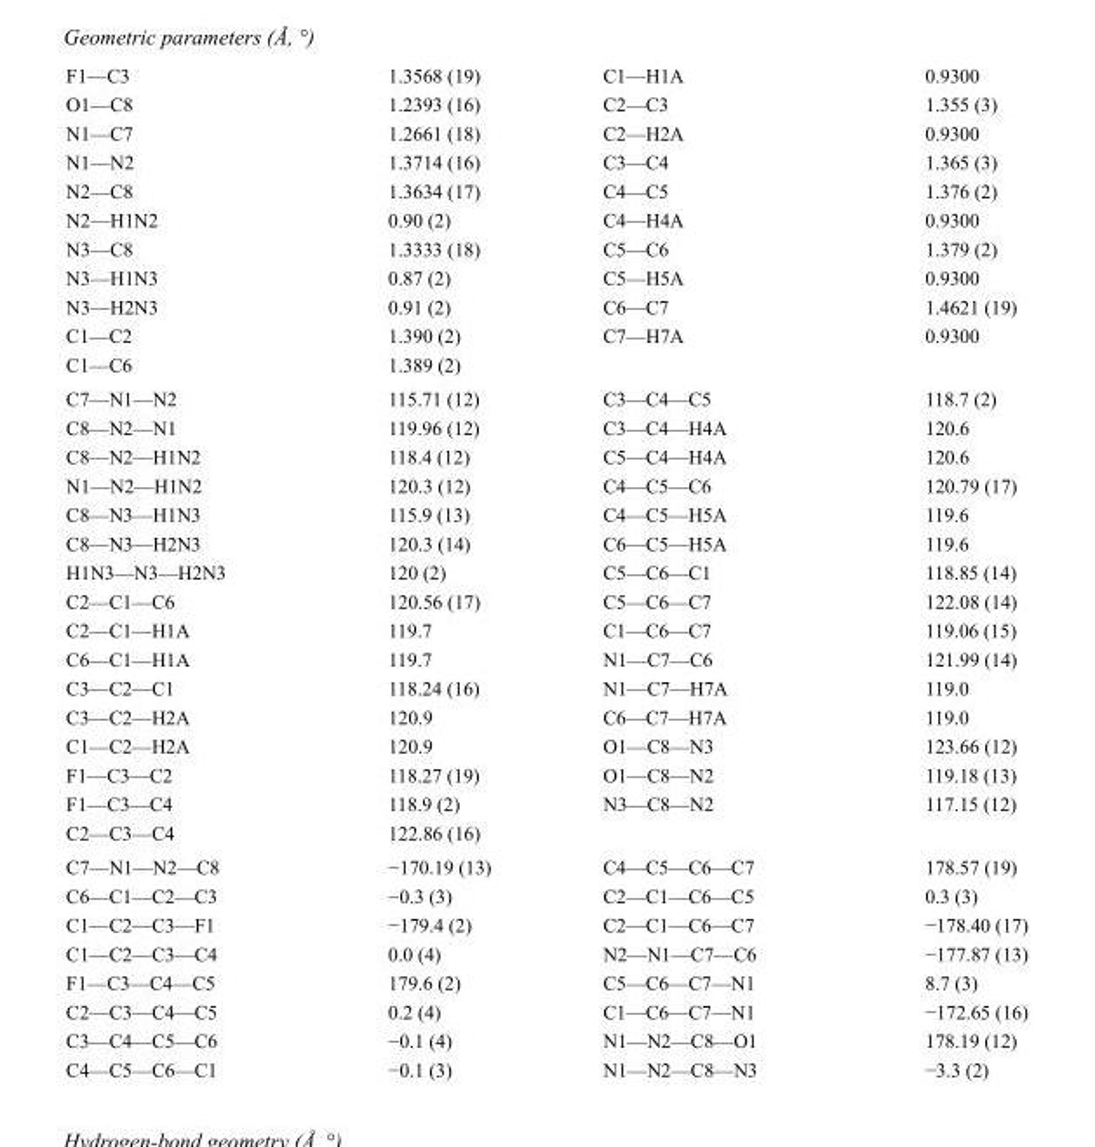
<table><tbody><tr><td>F1—C3</td><td>1.3568 (19)</td><td>C1—H1A</td><td>0.9300</td></tr><tr><td>O1—C8</td><td>1.2393 (16)</td><td>C2—C3</td><td>1.355 (3)</td></tr><tr><td>N1—C7</td><td>1.2661 (18)</td><td>C2—H2A</td><td>0.9300</td></tr><tr><td>N1—N2</td><td>1.3714 (16)</td><td>C3—C4</td><td>1.365 (3)</td></tr><tr><td>N2—C8</td><td>1.3634 (17)</td><td>C4—C5</td><td>1.376 (2)</td></tr><tr><td>N2—H1N2</td><td>0.90 (2)</td><td>C4—H4A</td><td>0.9300</td></tr><tr><td>N3—C8</td><td>1.3333 (18)</td><td>C5—C6</td><td>1.379 (2)</td></tr><tr><td>N3—H1N3</td><td>0.87 (2)</td><td>C5—H5A</td><td>0.9300</td></tr><tr><td>N3—H2N3</td><td>0.91 (2)</td><td>C6—C7</td><td>1.4621 (19)</td></tr><tr><td>C1—C2</td><td>1.390 (2)</td><td>C7—H7A</td><td>0.9300</td></tr><tr><td>C1—C6</td><td>1.389 (2)</td><td></td><td></td></tr><tr><td>C7—N1—N2</td><td>115.71 (12)</td><td>C3—C4—C5</td><td>118.7 (2)</td></tr><tr><td>C8—N2—N1</td><td>119.96 (12)</td><td>C3—C4—H4A</td><td>120.6</td></tr><tr><td>C8—N2—H1N2</td><td>118.4 (12)</td><td>C5—C4—H4A</td><td>120.6</td></tr><tr><td>N1—N2—H1N2</td><td>120.3 (12)</td><td>C4—C5—C6</td><td>120.79 (17)</td></tr><tr><td>C8—N3—H1N3</td><td>115.9 (13)</td><td>C4—C5—H5A</td><td>119.6</td></tr><tr><td>C8—N3—H2N3</td><td>120.3 (14)</td><td>C6—C5—H5A</td><td>119.6</td></tr><tr><td>H1N3—N3—H2N3</td><td>120 (2)</td><td>C5—C6—C1</td><td>118.85 (14)</td></tr><tr><td>C2—C1—C6</td><td>120.56 (17)</td><td>C5—C6—C7</td><td>122.08 (14)</td></tr><tr><td>C2—C1—H1A</td><td>119.7</td><td>C1—C6—C7</td><td>119.06 (15)</td></tr><tr><td>C6—C1—H1A</td><td>119.7</td><td>N1—C7—C6</td><td>121.99 (14)</td></tr><tr><td>C3—C2—C1</td><td>118.24 (16)</td><td>N1—C7—H7A</td><td>119.0</td></tr><tr><td>C3—C2—H2A</td><td>120.9</td><td>C6—C7—H7A</td><td>119.0</td></tr><tr><td>C1—C2—H2A</td><td>120.9</td><td>O1—C8—N3</td><td>123.66 (12)</td></tr><tr><td>F1—C3—C2</td><td>118.27 (19)</td><td>O1—C8—N2</td><td>119.18 (13)</td></tr><tr><td>F1—C3—C4</td><td>118.9 (2)</td><td>N3—C8—N2</td><td>117.15 (12)</td></tr><tr><td>C2—C3—C4</td><td>122.86 (16)</td><td></td><td></td></tr><tr><td>C7—N1—N2—C8</td><td>−170.19 (13)</td><td>C4—C5—C6—C7</td><td>178.57 (19)</td></tr><tr><td>C6—C1—C2—C3</td><td>−0.3 (3)</td><td>C2—C1—C6—C5</td><td>0.3 (3)</td></tr><tr><td>C1—C2—C3—F1</td><td>−179.4 (2)</td><td>C2—C1—C6—C7</td><td>−178.40 (17)</td></tr><tr><td>C1—C2—C3—C4</td><td>0.0 (4)</td><td>N2—N1—C7—C6</td><td>−177.87 (13)</td></tr><tr><td>F1—C3—C4—C5</td><td>179.6 (2)</td><td>C5—C6—C7—N1</td><td>8.7 (3)</td></tr><tr><td>C2—C3—C4—C5</td><td>0.2 (4)</td><td>C1—C6—C7—N1</td><td>−172.65 (16)</td></tr><tr><td>C3—C4—C5—C6</td><td>−0.1 (4)</td><td>N1—N2—C8—O1</td><td>178.19 (12)</td></tr><tr><td>C4—C5—C6—C1</td><td>−0.1 (3)</td><td>N1—N2—C8—N3</td><td>−3.3 (2)</td></tr></tbody></table>